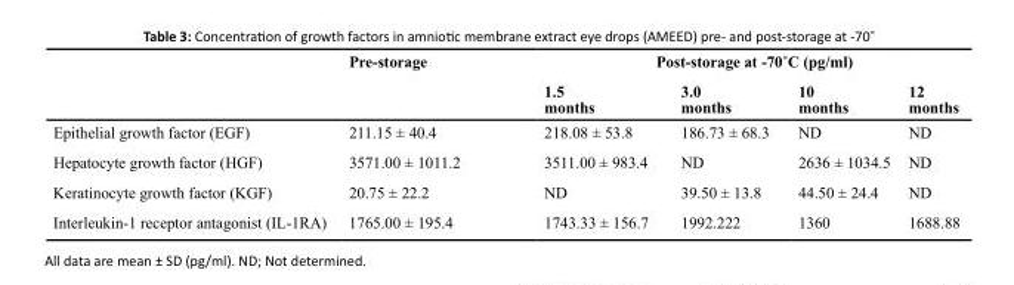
<table><thead><tr><td rowspan="2"></td><td rowspan="2">Pre-storage</td><td colspan="4">Post-storage at -70˚C (pg/ml)</td></tr><tr><td>1.5 months</td><td>3.0 months</td><td>10 months</td><td>12 months</td></tr></thead><tbody><tr><td>Epithelial growth factor (EGF)</td><td>211.15 ± 40.4</td><td>218.08 ± 53.8</td><td>186.73 ± 68.3</td><td>ND</td><td>ND</td></tr><tr><td>Hepatocyte growth factor (HGF)</td><td>3571.00 ± 1011.2</td><td>3511.00 ± 983.4</td><td>ND</td><td>2636 ± 1034.5</td><td>ND</td></tr><tr><td>Keratinocyte growth factor (KGF)</td><td>20.75 ± 22.2</td><td>ND</td><td>39.50 ± 13.8</td><td>44.50 ± 24.4</td><td>ND</td></tr><tr><td>Interleukin-1 receptor antagonist (IL-1RA)</td><td>1765.00 ± 195.4</td><td>1743.33 ± 156.7</td><td>1992.222</td><td>1360</td><td>1688.88</td></tr></tbody></table>